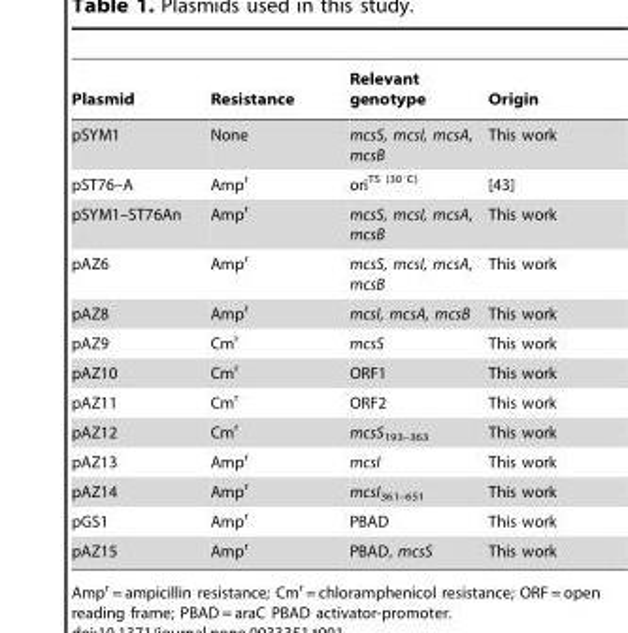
<table><thead><tr><td>Plasmid</td><td>Resistance</td><td>Relevant genotype</td><td>Origin</td></tr></thead><tbody><tr><td>pSYM1</td><td>None</td><td>mcsS, mcsI, mcsA, mcsB</td><td>This work</td></tr><tr><td>pST76–A</td><td>Amp<sup>r</sup></td><td>ori<sup>TS (30°C)</sup></td><td>[43]</td></tr><tr><td>pSYM1–ST76An</td><td>Amp<sup>r</sup></td><td>mcsS, mcsI, mcsA, mcsB</td><td>This work</td></tr><tr><td>pAZ6</td><td>Amp<sup>r</sup></td><td>mcsS, mcsI, mcsA, mcsB</td><td>This work</td></tr><tr><td>pAZ8</td><td>Amp<sup>r</sup></td><td>mcsI, mcsA, mcsB</td><td>This work</td></tr><tr><td>pAZ9</td><td>Cm<sup>r</sup></td><td>mcsS</td><td>This work</td></tr><tr><td>pAZ10</td><td>Cm<sup>r</sup></td><td>ORF1</td><td>This work</td></tr><tr><td>pAZ11</td><td>Cm<sup>r</sup></td><td>ORF2</td><td>This work</td></tr><tr><td>pAZ12</td><td>Cm<sup>r</sup></td><td>mcsS<sub>193–363</sub></td><td>This work</td></tr><tr><td>pAZ13</td><td>Amp<sup>r</sup></td><td>mcsI</td><td>This work</td></tr><tr><td>pAZ14</td><td>Amp<sup>r</sup></td><td>mcsI<sub>361–651</sub></td><td>This work</td></tr><tr><td>pGS1</td><td>Amp<sup>r</sup></td><td>PBAD</td><td>This work</td></tr><tr><td>pAZ15</td><td>Amp<sup>r</sup></td><td>PBAD, mcsS</td><td>This work</td></tr></tbody></table>